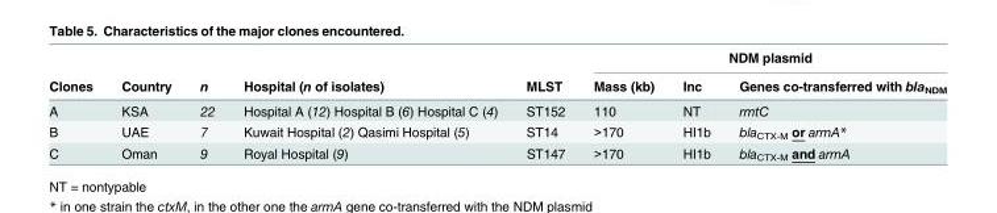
<table><thead><tr><td rowspan="2">Clones</td><td rowspan="2">Country</td><td rowspan="2">n</td><td rowspan="2">Hospital (n of isolates)</td><td rowspan="2">MLST</td><td colspan="3">NDM plasmid</td></tr><tr><td>Mass (kb)</td><td>Inc</td><td>Genes co-transferred with bla<sub>NDM</sub></td></tr></thead><tbody><tr><td>A</td><td>KSA</td><td>22</td><td>Hospital A (12) Hospital B (6) Hospital C (4)</td><td>ST152</td><td>110</td><td>NT</td><td>rmtC</td></tr><tr><td>B</td><td>UAE</td><td>7</td><td>Kuwait Hospital (2) Qasimi Hospital (5)</td><td>ST14</td><td>&gt;170</td><td>HI1b</td><td>bla<sub>CTX-M</sub> or armA*</td></tr><tr><td>C</td><td>Oman</td><td>9</td><td>Royal Hospital (9)</td><td>ST147</td><td>&gt;170</td><td>HI1b</td><td>bla<sub>CTX-M</sub> and armA</td></tr></tbody></table>